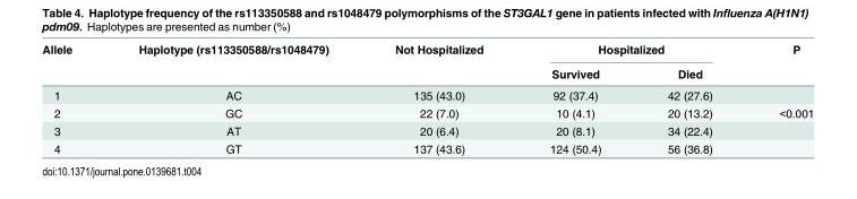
<table><thead><tr><td rowspan="2">Allele</td><td rowspan="2">Haplotype (rs113350588/rs1048479)</td><td rowspan="2">Not Hospitalized</td><td colspan="2">Hospitalized</td><td rowspan="2">P</td></tr><tr><td>Survived</td><td>Died</td></tr></thead><tbody><tr><td>1</td><td>AC</td><td>135 (43.0)</td><td>92 (37.4)</td><td>42 (27.6)</td><td></td></tr><tr><td>2</td><td>GC</td><td>22 (7.0)</td><td>10 (4.1)</td><td>20 (13.2)</td><td>&lt;0.001</td></tr><tr><td>3</td><td>AT</td><td>20 (6.4)</td><td>20 (8.1)</td><td>34 (22.4)</td><td></td></tr><tr><td>4</td><td>GT</td><td>137 (43.6)</td><td>124 (50.4)</td><td>56 (36.8)</td><td></td></tr></tbody></table>